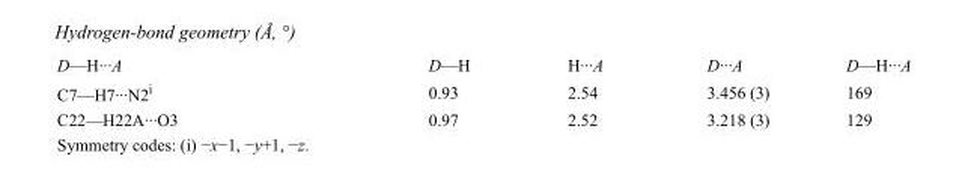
<table><tbody><tr><td>D—H···A</td><td>D—H</td><td>H···A</td><td>D···A</td><td>D—H···A</td></tr><tr><td>C7—H7···N2<sup>i</sup></td><td>0.93</td><td>2.54</td><td>3.456 (3)</td><td>169</td></tr><tr><td>C22—H22A···O3</td><td>0.97</td><td>2.52</td><td>3.218 (3)</td><td>129</td></tr></tbody></table>